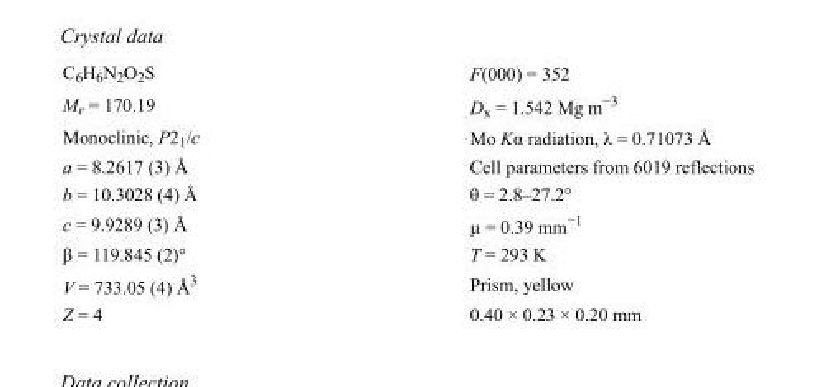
<table><tbody><tr><td>C<sub>6</sub>H<sub>6</sub>N<sub>2</sub>O<sub>2</sub>S</td><td>F(000) = 352</td></tr><tr><td>M<sub>r</sub> = 170.19</td><td>D<sub>x</sub> = 1.542 Mg m<sup>−3</sup></td></tr><tr><td>Monoclinic, P2<sub>1</sub>/c</td><td>Mo Kα radiation, λ = 0.71073 Å</td></tr><tr><td>a = 8.2617 (3) Å</td><td>Cell parameters from 6019 reflections</td></tr><tr><td>b = 10.3028 (4) Å</td><td>θ = 2.8–27.2°</td></tr><tr><td>c = 9.9289 (3) Å</td><td>µ = 0.39 mm<sup>−1</sup></td></tr><tr><td>β = 119.845 (2)°</td><td>T = 293 K</td></tr><tr><td>V = 733.05 (4) Å<sup>3</sup></td><td>Prism, yellow</td></tr><tr><td>Z = 4</td><td>0.40 × 0.23 × 0.20 mm</td></tr></tbody></table>